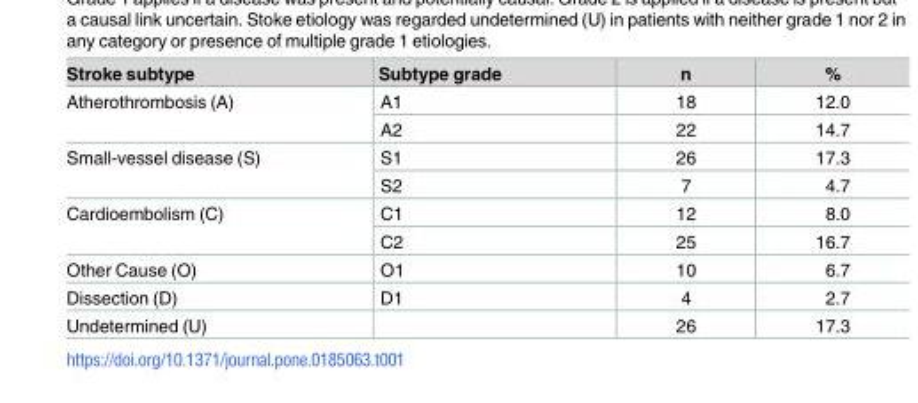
<table><thead><tr><td>Stroke subtype</td><td>Subtype grade</td><td>n</td><td>%</td></tr></thead><tbody><tr><td rowspan="2">Atherothrombosis (A)</td><td>A1</td><td>18</td><td>12.0</td></tr><tr><td>A2</td><td>22</td><td>14.7</td></tr><tr><td rowspan="2">Small-vessel disease (S)</td><td>S1</td><td>26</td><td>17.3</td></tr><tr><td>S2</td><td>7</td><td>4.7</td></tr><tr><td rowspan="2">Cardioembolism (C)</td><td>C1</td><td>12</td><td>8.0</td></tr><tr><td>C2</td><td>25</td><td>16.7</td></tr><tr><td>Other Cause (O)</td><td>O1</td><td>10</td><td>6.7</td></tr><tr><td>Dissection (D)</td><td>D1</td><td>4</td><td>2.7</td></tr><tr><td>Undetermined (U)</td><td></td><td>26</td><td>17.3</td></tr></tbody></table>